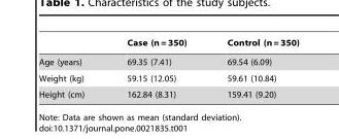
<table><thead><tr><td></td><td>Case (n = 350)</td><td>Control (n = 350)</td></tr></thead><tbody><tr><td>Age (years)</td><td>69.35 (7.41)</td><td>69.54 (6.09)</td></tr><tr><td>Weight (kg)</td><td>59.15 (12.05)</td><td>59.61 (10.84)</td></tr><tr><td>Height (cm)</td><td>162.84 (8.31)</td><td>159.41 (9.20)</td></tr></tbody></table>